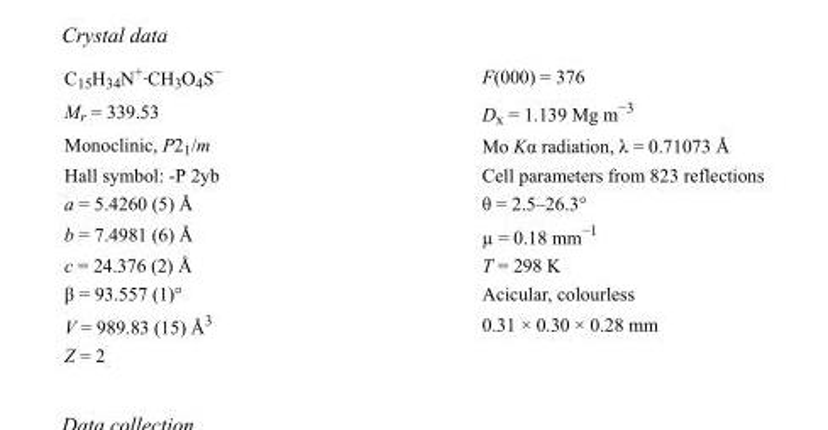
<table><tbody><tr><td>C<sub>15</sub>H<sub>34</sub>N<sup>+</sup>·CH<sub>3</sub>O<sub>4</sub>S<sup>−</sup></td><td>F(000) = 376</td></tr><tr><td>M<sub>r</sub> = 339.53</td><td>D<sub>x</sub> = 1.139 Mg m<sup>−3</sup></td></tr><tr><td>Monoclinic, P2<sub>1</sub>/m</td><td>Mo Kα radiation, λ = 0.71073 Å</td></tr><tr><td>Hall symbol: -P 2yb</td><td>Cell parameters from 823 reflections</td></tr><tr><td>a = 5.4260 (5) Å</td><td>θ = 2.5–26.3°</td></tr><tr><td>b = 7.4981 (6) Å</td><td>µ = 0.18 mm<sup>−1</sup></td></tr><tr><td>c = 24.376 (2) Å</td><td>T = 298 K</td></tr><tr><td>β = 93.557 (1)°</td><td>Acicular, colourless</td></tr><tr><td>V = 989.83 (15) Å<sup>3</sup></td><td>0.31 × 0.30 × 0.28 mm</td></tr><tr><td>Z = 2</td><td></td></tr></tbody></table>